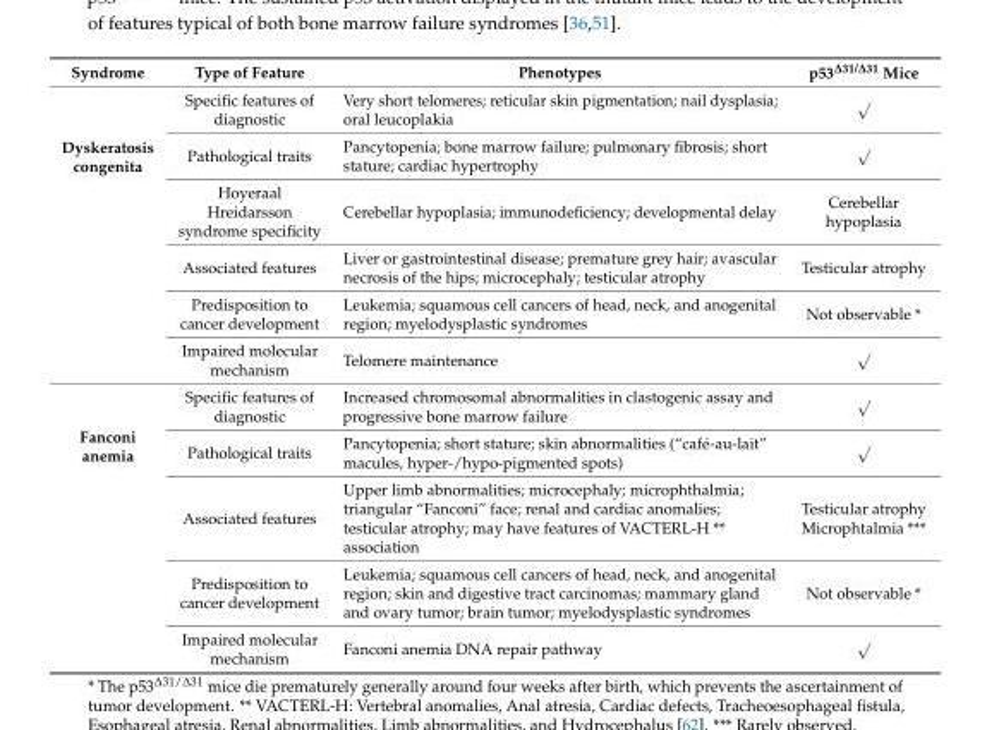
<table><thead><tr><td>Syndrome</td><td>Type of Feature</td><td>Phenotypes</td><td>p53∆31/∆31 Mice</td></tr></thead><tbody><tr><td rowspan="6">Dyskeratosis congenita</td><td>Specific features of diagnostic</td><td>Very short telomeres; reticular skin pigmentation; nail dysplasia; oral leucoplakia</td><td>√</td></tr><tr><td>Pathological traits</td><td>Pancytopenia; bone marrow failure; pulmonary fibrosis; short stature; cardiac hypertrophy</td><td>√</td></tr><tr><td>Hoyeraal Hreidarsson syndrome specificity</td><td>Cerebellar hypoplasia; immunodeficiency; developmental delay</td><td>Cerebellar hypoplasia</td></tr><tr><td>Associated features</td><td>Liver or gastrointestinal disease; premature grey hair; avascular necrosis of the hips; microcephaly; testicular atrophy</td><td>Testicular atrophy</td></tr><tr><td>Predisposition to cancer development</td><td>Leukemia; squamous cell cancers of head, neck, and anogenital region; myelodysplastic syndromes</td><td>Not observable *</td></tr><tr><td>Impaired molecular mechanism</td><td>Telomere maintenance</td><td>√</td></tr><tr><td rowspan="5">Fanconi anemia</td><td>Specific features of diagnostic</td><td>Increased chromosomal abnormalities in clastogenic assay and progressive bone marrow failure</td><td>√</td></tr><tr><td>Pathological traits</td><td>Pancytopenia; short stature; skin abnormalities (“café-au-lait” macules, hyper-/hypo-pigmented spots)</td><td>√</td></tr><tr><td>Associated features</td><td>Upper limb abnormalities; microcephaly; microphthalmia; triangular “Fanconi” face; renal and cardiac anomalies; testicular atrophy; may have features of VACTERL-H ** association</td><td>Testicular atrophy Microphtalmia ***</td></tr><tr><td>Predisposition to cancer development</td><td>Leukemia; squamous cell cancers of head, neck, and anogenital region; skin and digestive tract carcinomas; mammary gland and ovary tumor; brain tumor; myelodysplastic syndromes</td><td>Not observable *</td></tr><tr><td>Impaired molecular mechanism</td><td>Fanconi anemia DNA repair pathway</td><td>√</td></tr></tbody></table>